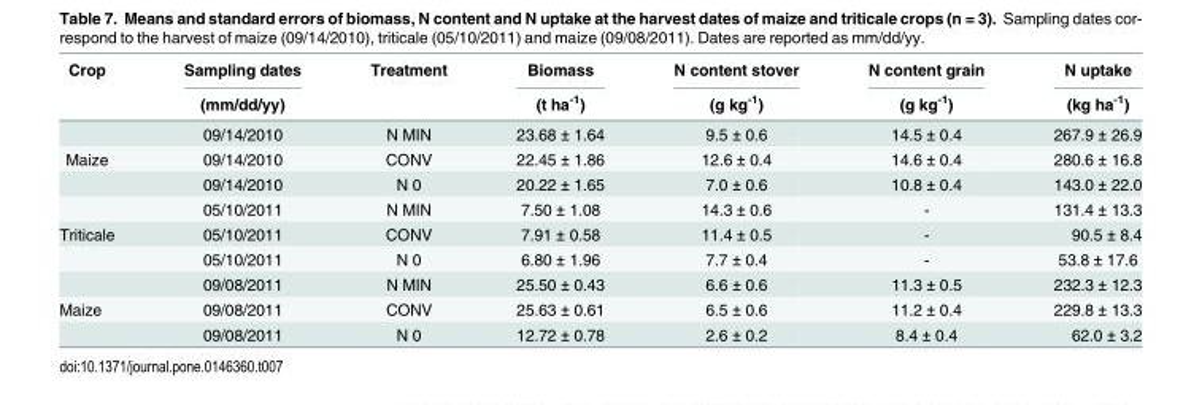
<table><thead><tr><td rowspan="2">Crop</td><td rowspan="2">Sampling dates (mm/dd/yy)</td><td rowspan="2">Treatment</td><td rowspan="2">Biomass (t ha<sup>-1</sup>)</td><td rowspan="2">N content stover (g kg<sup>-1</sup>)</td><td rowspan="2">N content grain (g kg<sup>-1</sup>)</td><td rowspan="2">N uptake (kg ha<sup>-1</sup>)</td></tr><tr></tr></thead><tbody><tr><td></td><td>09/14/2010</td><td>N MIN</td><td>23.68 ± 1.64</td><td>9.5 ± 0.6</td><td>14.5 ± 0.4</td><td>267.9 ± 26.9</td></tr><tr><td rowspan="3">Maize</td><td>09/14/2010</td><td>CONV</td><td>22.45 ± 1.86</td><td>12.6 ± 0.4</td><td>14.6 ± 0.4</td><td>280.6 ± 16.8</td></tr><tr><td>09/14/2010</td><td>N 0</td><td>20.22 ± 1.65</td><td>7.0 ± 0.6</td><td>10.8 ± 0.4</td><td>143.0 ± 22.0</td></tr><tr><td>05/10/2011</td><td>N MIN</td><td>7.50 ± 1.08</td><td>14.3 ± 0.6</td><td>-</td><td>131.4 ± 13.3</td></tr><tr><td rowspan="3">Triticale</td><td>05/10/2011</td><td>CONV</td><td>7.91 ± 0.58</td><td>11.4 ± 0.5</td><td>-</td><td>90.5 ± 8.4</td></tr><tr><td>05/10/2011</td><td>N 0</td><td>6.80 ± 1.96</td><td>7.7 ± 0.4</td><td>-</td><td>53.8 ± 17.6</td></tr><tr><td>09/08/2011</td><td>N MIN</td><td>25.50 ± 0.43</td><td>6.6 ± 0.6</td><td>11.3 ± 0.5</td><td>232.3 ± 12.3</td></tr><tr><td rowspan="2">Maize</td><td>09/08/2011</td><td>CONV</td><td>25.63 ± 0.61</td><td>6.5 ± 0.6</td><td>11.2 ± 0.4</td><td>229.8 ± 13.3</td></tr><tr><td>09/08/2011</td><td>N 0</td><td>12.72 ± 0.78</td><td>2.6 ± 0.2</td><td>8.4 ± 0.4</td><td>62.0 ± 3.2</td></tr></tbody></table>